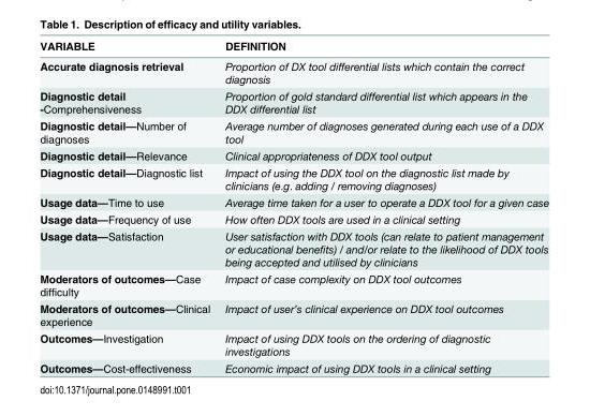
<table><thead><tr><td>VARIABLE</td><td>DEFINITION</td></tr></thead><tbody><tr><td>Accurate diagnosis retrieval</td><td>Proportion of DX tool differential lists which contain the correct diagnosis</td></tr><tr><td>Diagnostic detail -Comprehensiveness</td><td>Proportion of gold standard differential list which appears in the DDX differential list</td></tr><tr><td>Diagnostic detail—Number of diagnoses</td><td>Average number of diagnoses generated during each use of a DDX tool</td></tr><tr><td>Diagnostic detail—Relevance</td><td>Clinical appropriateness of DDX tool output</td></tr><tr><td>Diagnostic detail—Diagnostic list</td><td>Impact of using the DDX tool on the diagnostic list made by clinicians (e.g. adding / removing diagnoses)</td></tr><tr><td>Usage data—Time to use</td><td>Average time taken for a user to operate a DDX tool for a given case</td></tr><tr><td>Usage data—Frequency of use</td><td>How often DDX tools are used in a clinical setting</td></tr><tr><td>Usage data—Satisfaction</td><td>User satisfaction with DDX tools (can relate to patient management or educational benefits) / and/or relate to the likelihood of DDX tools being accepted and utilised by clinicians</td></tr><tr><td>Moderators of outcomes—Case difficulty</td><td>Impact of case complexity on DDX tool outcomes</td></tr><tr><td>Moderators of outcomes—Clinical experience</td><td>Impact of user’s clinical experience on DDX tool outcomes</td></tr><tr><td>Outcomes—Investigation</td><td>Impact of using DDX tools on the ordering of diagnostic investigations</td></tr><tr><td>Outcomes—Cost-effectiveness</td><td>Economic impact of using DDX tools in a clinical setting</td></tr></tbody></table>